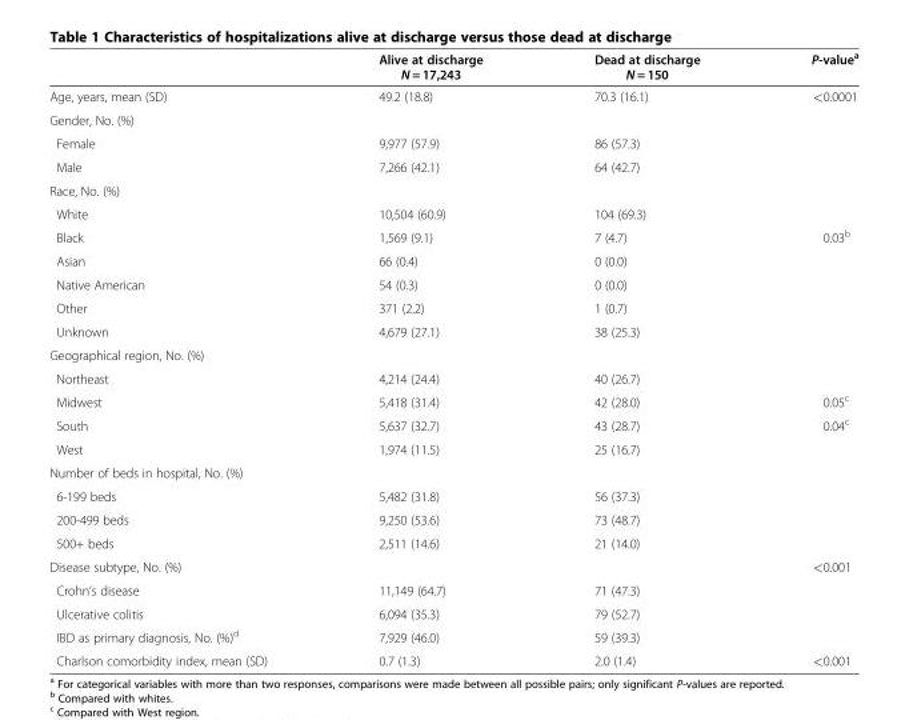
<table><thead><tr><td></td><td>Alive at discharge N = 17,243</td><td>Dead at discharge N = 150</td><td>P-value<sup>a</sup></td></tr></thead><tbody><tr><td>Age, years, mean (SD)</td><td>49.2 (18.8)</td><td>70.3 (16.1)</td><td>&lt;0.0001</td></tr><tr><td colspan="4">Gender, No. (%)</td></tr><tr><td>Female</td><td>9,977 (57.9)</td><td>86 (57.3)</td><td></td></tr><tr><td>Male</td><td>7,266 (42.1)</td><td>64 (42.7)</td><td></td></tr><tr><td colspan="4">Race, No. (%)</td></tr><tr><td>White</td><td>10,504 (60.9)</td><td>104 (69.3)</td><td></td></tr><tr><td>Black</td><td>1,569 (9.1)</td><td>7 (4.7)</td><td>0.03<sup>b</sup></td></tr><tr><td>Asian</td><td>66 (0.4)</td><td>0 (0.0)</td><td></td></tr><tr><td>Native American</td><td>54 (0.3)</td><td>0 (0.0)</td><td></td></tr><tr><td>Other</td><td>371 (2.2)</td><td>1 (0.7)</td><td></td></tr><tr><td>Unknown</td><td>4,679 (27.1)</td><td>38 (25.3)</td><td></td></tr><tr><td colspan="4">Geographical region, No. (%)</td></tr><tr><td>Northeast</td><td>4,214 (24.4)</td><td>40 (26.7)</td><td></td></tr><tr><td>Midwest</td><td>5,418 (31.4)</td><td>42 (28.0)</td><td>0.05<sup>c</sup></td></tr><tr><td>South</td><td>5,637 (32.7)</td><td>43 (28.7)</td><td>0.04<sup>c</sup></td></tr><tr><td>West</td><td>1,974 (11.5)</td><td>25 (16.7)</td><td></td></tr><tr><td colspan="4">Number of beds in hospital, No. (%)</td></tr><tr><td>6-199 beds</td><td>5,482 (31.8)</td><td>56 (37.3)</td><td></td></tr><tr><td>200-499 beds</td><td>9,250 (53.6)</td><td>73 (48.7)</td><td></td></tr><tr><td>500+ beds</td><td>2,511 (14.6)</td><td>21 (14.0)</td><td></td></tr><tr><td>Disease subtype, No. (%)</td><td></td><td></td><td>&lt;0.001</td></tr><tr><td>Crohn’s disease</td><td>11,149 (64.7)</td><td>71 (47.3)</td><td></td></tr><tr><td>Ulcerative colitis</td><td>6,094 (35.3)</td><td>79 (52.7)</td><td></td></tr><tr><td>IBD as primary diagnosis, No. (%)<sup>d</sup></td><td>7,929 (46.0)</td><td>59 (39.3)</td><td></td></tr><tr><td>Charlson comorbidity index, mean (SD)</td><td>0.7 (1.3)</td><td>2.0 (1.4)</td><td>&lt;0.001</td></tr></tbody></table>